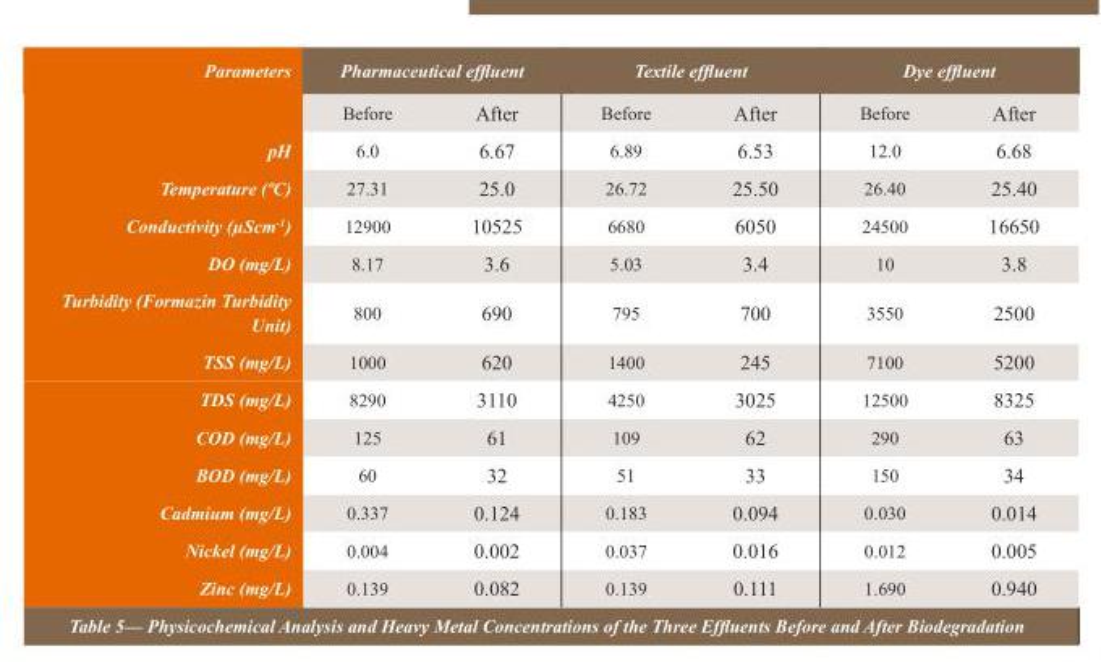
<table><thead><tr><td rowspan="2">Parameters</td><td colspan="2">Pharmaceutical effluent</td><td colspan="2">Textile effluent</td><td colspan="2">Dye effluent</td></tr><tr><td>Before</td><td>After</td><td>Before</td><td>After</td><td>Before</td><td>After</td></tr></thead><tbody><tr><td>pH</td><td>6.0</td><td>6.67</td><td>6.89</td><td>6.53</td><td>12.0</td><td>6.68</td></tr><tr><td>Temperature (ºC)</td><td>27.31</td><td>25.0</td><td>26.72</td><td>25.50</td><td>26.40</td><td>25.40</td></tr><tr><td>Conductivity (µScm<sup>-1</sup>)</td><td>12900</td><td>10525</td><td>6680</td><td>6050</td><td>24500</td><td>16650</td></tr><tr><td>DO (mg/L)</td><td>8.17</td><td>3.6</td><td>5.03</td><td>3.4</td><td>10</td><td>3.8</td></tr><tr><td>Turbidity (Formazin Turbidity Unit)</td><td>800</td><td>690</td><td>795</td><td>700</td><td>3550</td><td>2500</td></tr><tr><td>TSS (mg/L)</td><td>1000</td><td>620</td><td>1400</td><td>245</td><td>7100</td><td>5200</td></tr><tr><td>TDS (mg/L)</td><td>8290</td><td>3110</td><td>4250</td><td>3025</td><td>12500</td><td>8325</td></tr><tr><td>COD (mg/L)</td><td>125</td><td>61</td><td>109</td><td>62</td><td>290</td><td>63</td></tr><tr><td>BOD (mg/L)</td><td>60</td><td>32</td><td>51</td><td>33</td><td>150</td><td>34</td></tr><tr><td>Cadmium (mg/L)</td><td>0.337</td><td>0.124</td><td>0.183</td><td>0.094</td><td>0.030</td><td>0.014</td></tr><tr><td>Nickel (mg/L)</td><td>0.004</td><td>0.002</td><td>0.037</td><td>0.016</td><td>0.012</td><td>0.005</td></tr><tr><td>Zinc (mg/L)</td><td>0.139</td><td>0.082</td><td>0.139</td><td>0.111</td><td>1.690</td><td>0.940</td></tr></tbody></table>